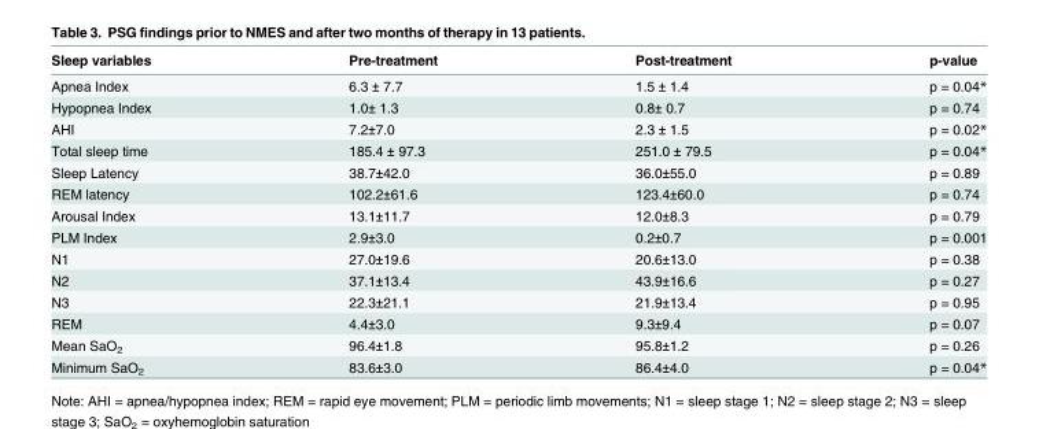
<table><thead><tr><td>Sleep variables</td><td>Pre-treatment</td><td>Post-treatment</td><td>p-value</td></tr></thead><tbody><tr><td>Apnea Index</td><td>6.3 ± 7.7</td><td>1.5 ± 1.4</td><td>p = 0.04*</td></tr><tr><td>Hypopnea Index</td><td>1.0± 1.3</td><td>0.8± 0.7</td><td>p = 0.74</td></tr><tr><td>AHI</td><td>7.2±7.0</td><td>2.3 ± 1.5</td><td>p = 0.02*</td></tr><tr><td>Total sleep time</td><td>185.4 ± 97.3</td><td>251.0 ± 79.5</td><td>p = 0.04*</td></tr><tr><td>Sleep Latency</td><td>38.7±42.0</td><td>36.0±55.0</td><td>p = 0.89</td></tr><tr><td>REM latency</td><td>102.2±61.6</td><td>123.4±60.0</td><td>p = 0.74</td></tr><tr><td>Arousal Index</td><td>13.1±11.7</td><td>12.0±8.3</td><td>p = 0.79</td></tr><tr><td>PLM Index</td><td>2.9±3.0</td><td>0.2±0.7</td><td>p = 0.001</td></tr><tr><td>N1</td><td>27.0±19.6</td><td>20.6±13.0</td><td>p = 0.38</td></tr><tr><td>N2</td><td>37.1±13.4</td><td>43.9±16.6</td><td>p = 0.27</td></tr><tr><td>N3</td><td>22.3±21.1</td><td>21.9±13.4</td><td>p = 0.95</td></tr><tr><td>REM</td><td>4.4±3.0</td><td>9.3±9.4</td><td>p = 0.07</td></tr><tr><td>Mean SaO<sub>2</sub></td><td>96.4±1.8</td><td>95.8±1.2</td><td>p = 0.26</td></tr><tr><td>Minimum SaO<sub>2</sub></td><td>83.6±3.0</td><td>86.4±4.0</td><td>p = 0.04*</td></tr></tbody></table>